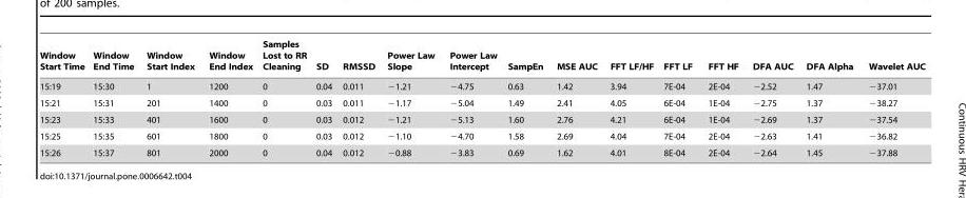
<table><thead><tr><td>Window Start Time</td><td>Window End Time</td><td>Window Start Index</td><td>Window End Index</td><td>Samples Lost to RR Cleaning</td><td>SD</td><td>RMSSD</td><td>Power Law Slope</td><td>Power Law Intercept</td><td>SampEn</td><td>MSE AUC</td><td>FFT LF/HF</td><td>FFT LF</td><td>FFT HF</td><td>DFA AUC</td><td>DFA Alpha</td><td>Wavelet AUC</td></tr></thead><tbody><tr><td>15:19</td><td>15:30</td><td>1</td><td>1200</td><td>0</td><td>0.04</td><td>0.011</td><td>−1.21</td><td>−4.75</td><td>0.63</td><td>1.42</td><td>3.94</td><td>7E-04</td><td>2E-04</td><td>−2.52</td><td>1.47</td><td>−37.01</td></tr><tr><td>15:21</td><td>15:31</td><td>201</td><td>1400</td><td>0</td><td>0.03</td><td>0.011</td><td>−1.17</td><td>−5.04</td><td>1.49</td><td>2.41</td><td>4.05</td><td>6E-04</td><td>1E-04</td><td>−2.75</td><td>1.37</td><td>−38.27</td></tr><tr><td>15:23</td><td>15:33</td><td>401</td><td>1600</td><td>0</td><td>0.03</td><td>0.012</td><td>−1.21</td><td>−5.13</td><td>1.60</td><td>2.76</td><td>4.21</td><td>6E-04</td><td>1E-04</td><td>−2.69</td><td>1.37</td><td>−37.54</td></tr><tr><td>15:25</td><td>15:35</td><td>601</td><td>1800</td><td>0</td><td>0.03</td><td>0.012</td><td>−1.10</td><td>−4.70</td><td>1.58</td><td>2.69</td><td>4.04</td><td>7E-04</td><td>2E-04</td><td>−2.63</td><td>1.41</td><td>−36.82</td></tr><tr><td>15:26</td><td>15:37</td><td>801</td><td>2000</td><td>0</td><td>0.04</td><td>0.012</td><td>−0.88</td><td>−3.83</td><td>0.69</td><td>1.62</td><td>4.01</td><td>8E-04</td><td>2E-04</td><td>−2.64</td><td>1.45</td><td>−37.88</td></tr></tbody></table>